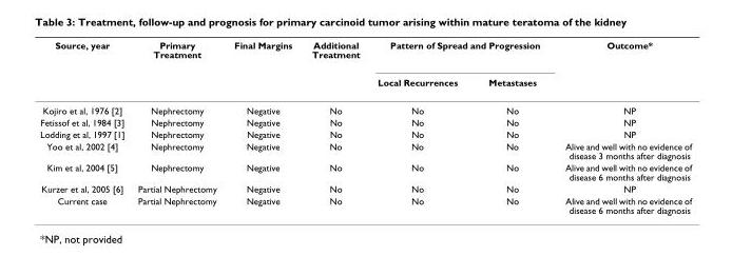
<table><thead><tr><td rowspan="2">Source, year</td><td rowspan="2">Primary Treatment</td><td rowspan="2">Final Margins</td><td rowspan="2">Additional Treatment</td><td colspan="2">Pattern of Spread and Progression</td><td rowspan="2">Outcome*</td></tr><tr><td>Local Recurrences</td><td>Metastases</td></tr></thead><tbody><tr><td>Kojiro et al, 1976 [2]</td><td>Nephrectomy</td><td>Negative</td><td>No</td><td>No</td><td>No</td><td>NP</td></tr><tr><td>Fetissof et al, 1984 [3]</td><td>Nephrectomy</td><td>Negative</td><td>No</td><td>No</td><td>No</td><td>NP</td></tr><tr><td>Lodding et al, 1997 [1]</td><td>Nephrectomy</td><td>Negative</td><td>No</td><td>No</td><td>No</td><td>NP</td></tr><tr><td>Yoo et al, 2002 [4]</td><td>Nephrectomy</td><td>Negative</td><td>No</td><td>No</td><td>No</td><td>Alive and well with no evidence of disease 3 months after diagnosis</td></tr><tr><td>Kim et al, 2004 [5]</td><td>Nephrectomy</td><td>Negative</td><td>No</td><td>No</td><td>No</td><td>Alive and well with no evidence of disease 6 months after diagnosis</td></tr><tr><td>Kurzer et al, 2005 [6]</td><td>Partial Nephrectomy</td><td>Negative</td><td>No</td><td>No</td><td>No</td><td>NP</td></tr><tr><td>Current case</td><td>Partial Nephrectomy</td><td>Negative</td><td>No</td><td>No</td><td>No</td><td>Alive and well with no evidence of disease 6 months after diagnosis</td></tr></tbody></table>